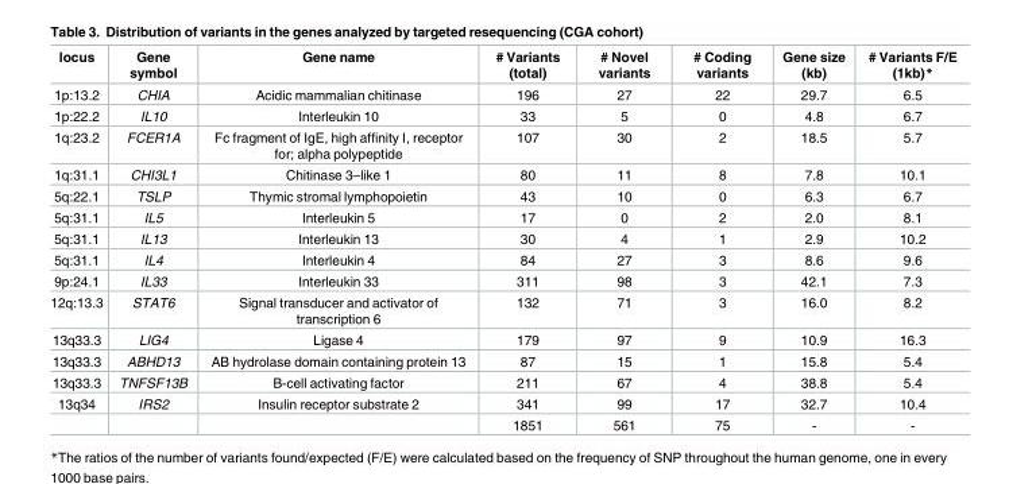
<table><thead><tr><td>locus</td><td>Gene symbol</td><td>Gene name</td><td># Variants (total)</td><td># Novel variants</td><td># Coding variants</td><td>Gene size (kb)</td><td># Variants F/E (1kb)*</td></tr></thead><tbody><tr><td>1p:13.2</td><td>CHIA</td><td>Acidic mammalian chitinase</td><td>196</td><td>27</td><td>22</td><td>29.7</td><td>6.5</td></tr><tr><td>1p:22.2</td><td>IL10</td><td>Interleukin 10</td><td>33</td><td>5</td><td>0</td><td>4.8</td><td>6.7</td></tr><tr><td>1q:23.2</td><td>FCER1A</td><td>Fc fragment of IgE, high affinity I, receptor for; alpha polypeptide</td><td>107</td><td>30</td><td>2</td><td>18.5</td><td>5.7</td></tr><tr><td>1q:31.1</td><td>CHI3L1</td><td>Chitinase 3–like 1</td><td>80</td><td>11</td><td>8</td><td>7.8</td><td>10.1</td></tr><tr><td>5q:22.1</td><td>TSLP</td><td>Thymic stromal lymphopoietin</td><td>43</td><td>10</td><td>0</td><td>6.3</td><td>6.7</td></tr><tr><td>5q:31.1</td><td>IL5</td><td>Interleukin 5</td><td>17</td><td>0</td><td>2</td><td>2.0</td><td>8.1</td></tr><tr><td>5q:31.1</td><td>IL13</td><td>Interleukin 13</td><td>30</td><td>4</td><td>1</td><td>2.9</td><td>10.2</td></tr><tr><td>5q:31.1</td><td>IL4</td><td>Interleukin 4</td><td>84</td><td>27</td><td>3</td><td>8.6</td><td>9.6</td></tr><tr><td>9p:24.1</td><td>IL33</td><td>Interleukin 33</td><td>311</td><td>98</td><td>3</td><td>42.1</td><td>7.3</td></tr><tr><td>12q:13.3</td><td>STAT6</td><td>Signal transducer and activator of transcription 6</td><td>132</td><td>71</td><td>3</td><td>16.0</td><td>8.2</td></tr><tr><td>13q33.3</td><td>LIG4</td><td>Ligase 4</td><td>179</td><td>97</td><td>9</td><td>10.9</td><td>16.3</td></tr><tr><td>13q33.3</td><td>ABHD13</td><td>AB hydrolase domain containing protein 13</td><td>87</td><td>15</td><td>1</td><td>15.8</td><td>5.4</td></tr><tr><td>13q33.3</td><td>TNFSF13B</td><td>B-cell activating factor</td><td>211</td><td>67</td><td>4</td><td>38.8</td><td>5.4</td></tr><tr><td rowspan="2">13q34</td><td>IRS2</td><td>Insulin receptor substrate 2</td><td>341</td><td>99</td><td>17</td><td>32.7</td><td>10.4</td></tr><tr><td></td><td></td><td>1851</td><td>561</td><td>75</td><td>-</td><td>-</td></tr></tbody></table>